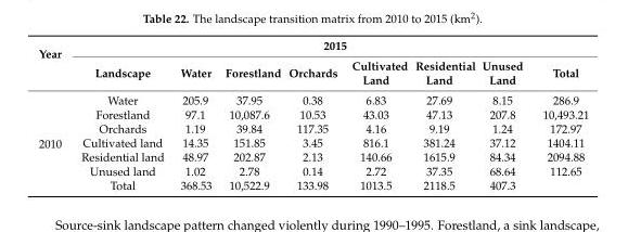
<table><thead><tr><td rowspan="2">Year</td><td colspan="8">2015</td></tr><tr><td>Landscape</td><td>Water</td><td>Forestland</td><td>Orchards</td><td>Cultivated Land</td><td>Residential Land</td><td>Unused Land</td><td>Total</td></tr></thead><tbody><tr><td rowspan="7">2010</td><td>Water</td><td>205.9</td><td>37.95</td><td>0.38</td><td>6.83</td><td>27.69</td><td>8.15</td><td>286.9</td></tr><tr><td>Forestland</td><td>97.1</td><td>10,087.6</td><td>10.53</td><td>43.03</td><td>47.13</td><td>207.8</td><td>10,493.21</td></tr><tr><td>Orchards</td><td>1.19</td><td>39.84</td><td>117.35</td><td>4.16</td><td>9.19</td><td>1.24</td><td>172.97</td></tr><tr><td>Cultivated land</td><td>14.35</td><td>151.85</td><td>3.45</td><td>816.1</td><td>381.24</td><td>37.12</td><td>1404.11</td></tr><tr><td>Residential land</td><td>48.97</td><td>202.87</td><td>2.13</td><td>140.66</td><td>1615.9</td><td>84.34</td><td>2094.88</td></tr><tr><td>Unused land</td><td>1.02</td><td>2.78</td><td>0.14</td><td>2.72</td><td>37.35</td><td>68.64</td><td>112.65</td></tr><tr><td>Total</td><td>368.53</td><td>10,522.9</td><td>133.98</td><td>1013.5</td><td>2118.5</td><td>407.3</td><td></td></tr></tbody></table>